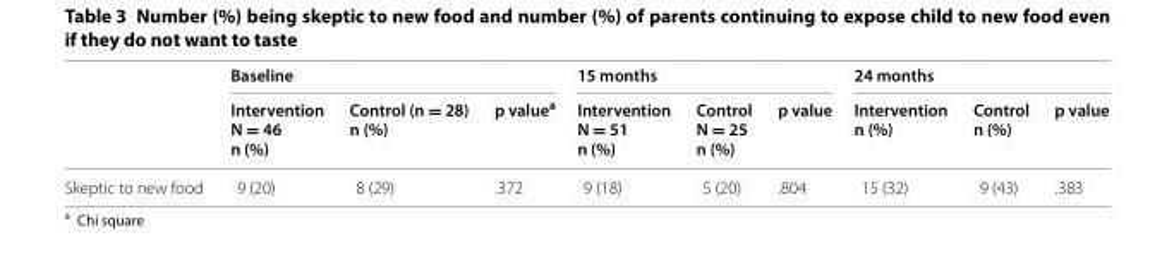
<table><thead><tr><td rowspan="2"></td><td colspan="3">Baseline</td><td colspan="3">15 months</td><td colspan="3">24 months</td></tr><tr><td>Intervention N = 46 n (%)</td><td>Control (n = 28) n (%)</td><td>p value<sup>a</sup></td><td>Intervention N = 51 n (%)</td><td>Control N = 25 n (%)</td><td>p value</td><td>Intervention n (%)</td><td>Control n (%)</td><td>p value</td></tr></thead><tbody><tr><td>Skeptic to new food</td><td>9 (20)</td><td>8 (29)</td><td>.372</td><td>9 (18)</td><td>5 (20)</td><td>.804</td><td>15 (32)</td><td>9 (43)</td><td>.383</td></tr></tbody></table>